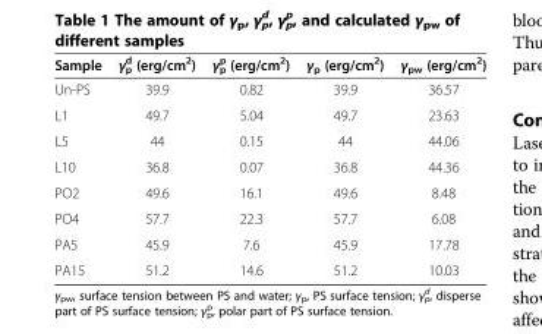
<table><thead><tr><td>Sample</td><td>γ<sub>p</sub> <sup>d</sup> (erg/cm<sup>2</sup>)</td><td>γ<sub>p</sub> <sup>p</sup> (erg/cm<sup>2</sup>)</td><td>γ<sub>p</sub> (erg/cm<sup>2</sup>)</td><td>γ<sub>pw</sub> (erg/cm<sup>2</sup>)</td></tr></thead><tbody><tr><td>Un-PS</td><td>39.9</td><td>0.82</td><td>39.9</td><td>36.57</td></tr><tr><td>L1</td><td>49.7</td><td>5.04</td><td>49.7</td><td>23.63</td></tr><tr><td>L5</td><td>44</td><td>0.15</td><td>44</td><td>44.06</td></tr><tr><td>L10</td><td>36.8</td><td>0.07</td><td>36.8</td><td>44.36</td></tr><tr><td>PO2</td><td>49.6</td><td>16.1</td><td>49.6</td><td>8.48</td></tr><tr><td>PO4</td><td>57.7</td><td>22.3</td><td>57.7</td><td>6.08</td></tr><tr><td>PA5</td><td>45.9</td><td>7.6</td><td>45.9</td><td>17.78</td></tr><tr><td>PA15</td><td>51.2</td><td>14.6</td><td>51.2</td><td>10.03</td></tr></tbody></table>